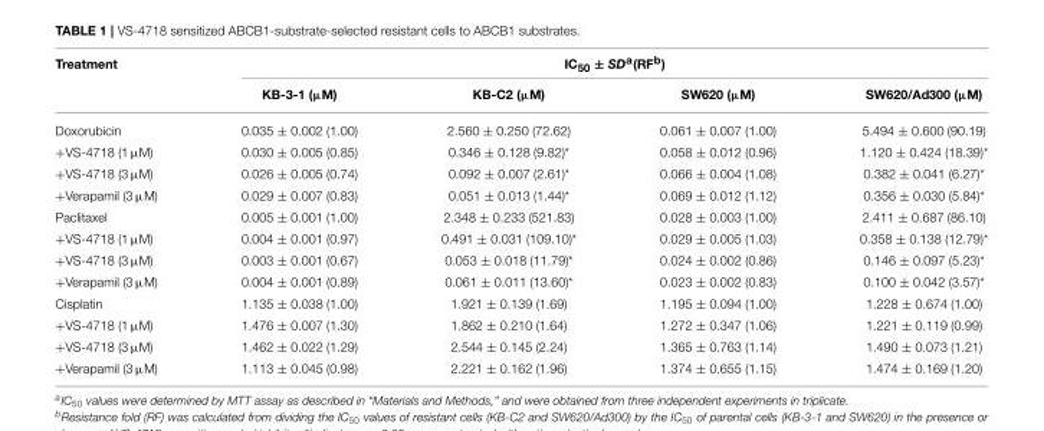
<table><thead><tr><td rowspan="2">Treatment</td><td colspan="4">IC<sub>50</sub> ± SD<sup>a</sup>(RF<sup>b</sup>)</td></tr><tr><td>KB-3-1 (µM)</td><td>KB-C2 (µM)</td><td>SW620 (µM)</td><td>SW620/Ad300 (µM)</td></tr></thead><tbody><tr><td>Doxorubicin</td><td>0.035 ± 0.002 (1.00)</td><td>2.560 ± 0.250 (72.62)</td><td>0.061 ± 0.007 (1.00)</td><td>5.494 ± 0.600 (90.19)</td></tr><tr><td>+VS-4718 (1 µM)</td><td>0.030 ± 0.005 (0.85)</td><td>0.346 ± 0.128 (9.82)*</td><td>0.058 ± 0.012 (0.96)</td><td>1.120 ± 0.424 (18.39)*</td></tr><tr><td>+VS-4718 (3 µM)</td><td>0.026 ± 0.005 (0.74)</td><td>0.092 ± 0.007 (2.61)*</td><td>0.066 ± 0.004 (1.08)</td><td>0.382 ± 0.041 (6.27)*</td></tr><tr><td>+Verapamil (3 µM)</td><td>0.029 ± 0.007 (0.83)</td><td>0.051 ± 0.013 (1.44)*</td><td>0.069 ± 0.012 (1.12)</td><td>0.356 ± 0.030 (5.84)*</td></tr><tr><td>Paclitaxel</td><td>0.005 ± 0.001 (1.00)</td><td>2.348 ± 0.233 (521.83)</td><td>0.028 ± 0.003 (1.00)</td><td>2.411 ± 0.687 (86.10)</td></tr><tr><td>+VS-4718 (1 µM)</td><td>0.004 ± 0.001 (0.97)</td><td>0.491 ± 0.031 (109.10)*</td><td>0.029 ± 0.005 (1.03)</td><td>0.358 ± 0.138 (12.79)*</td></tr><tr><td>+VS-4718 (3 µM)</td><td>0.003 ± 0.001 (0.67)</td><td>0.053 ± 0.018 (11.79)*</td><td>0.024 ± 0.002 (0.86)</td><td>0.146 ± 0.097 (5.23)*</td></tr><tr><td>+Verapamil (3 µM)</td><td>0.004 ± 0.001 (0.89)</td><td>0.061 ± 0.011 (13.60)*</td><td>0.023 ± 0.002 (0.83)</td><td>0.100 ± 0.042 (3.57)*</td></tr><tr><td>Cisplatin</td><td>1.135 ± 0.038 (1.00)</td><td>1.921 ± 0.139 (1.69)</td><td>1.195 ± 0.094 (1.00)</td><td>1.228 ± 0.674 (1.00)</td></tr><tr><td>+VS-4718 (1 µM)</td><td>1.476 ± 0.007 (1.30)</td><td>1.862 ± 0.210 (1.64)</td><td>1.272 ± 0.347 (1.06)</td><td>1.221 ± 0.119 (0.99)</td></tr><tr><td>+VS-4718 (3 µM)</td><td>1.462 ± 0.022 (1.29)</td><td>2.544 ± 0.145 (2.24)</td><td>1.365 ± 0.763 (1.14)</td><td>1.490 ± 0.073 (1.21)</td></tr><tr><td>+Verapamil (3 µM)</td><td>1.113 ± 0.045 (0.98)</td><td>2.221 ± 0.162 (1.96)</td><td>1.374 ± 0.655 (1.15)</td><td>1.474 ± 0.169 (1.20)</td></tr></tbody></table>